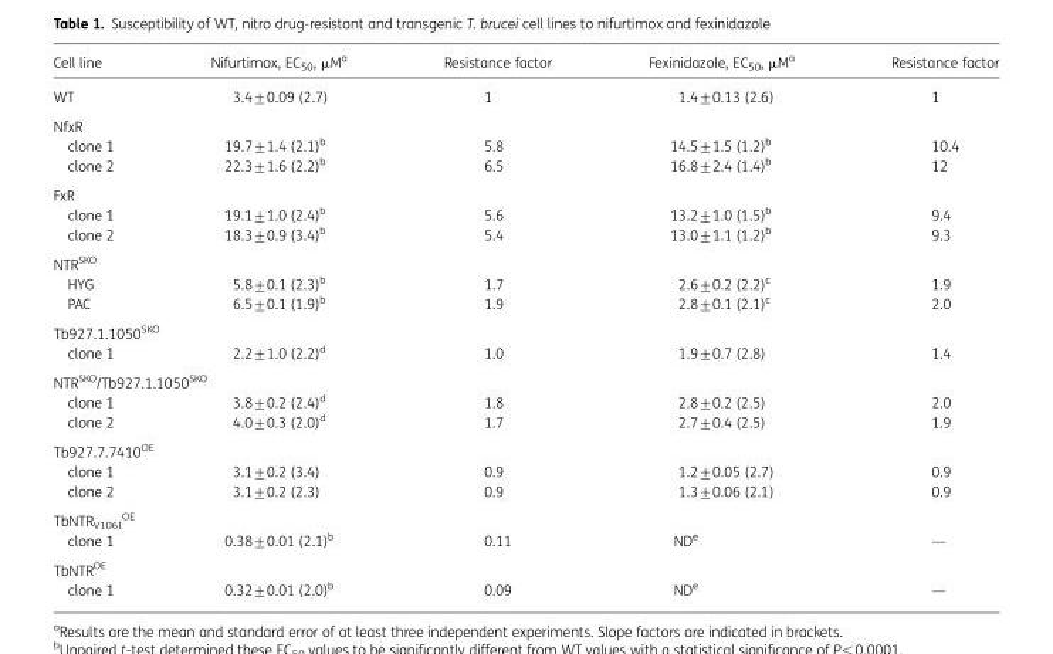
<table><thead><tr><td>Cell line</td><td>Nifurtimox, EC<sub>50</sub>, μM<sup>a</sup></td><td>Resistance factor</td><td>Fexinidazole, EC<sub>50</sub>, μM<sup>a</sup></td><td>Resistance factor</td></tr></thead><tbody><tr><td>WT</td><td>3.4+0.09 (2.7)</td><td>1</td><td>1.4+0.13 (2.6)</td><td>1</td></tr><tr><td colspan="5">NfxR</td></tr><tr><td>clone 1</td><td>19.7+1.4 (2.1)b</td><td>5.8</td><td>14.5+1.5 (1.2)b</td><td>10.4</td></tr><tr><td>clone 2</td><td>22.3+1.6 (2.2)b</td><td>6.5</td><td>16.8+2.4 (1.4)b</td><td>12</td></tr><tr><td colspan="5">FxR</td></tr><tr><td>clone 1</td><td>19.1+1.0 (2.4)b</td><td>5.6</td><td>13.2+1.0 (1.5)b</td><td>9.4</td></tr><tr><td>clone 2</td><td>18.3+0.9 (3.4)b</td><td>5.4</td><td>13.0+1.1 (1.2)b</td><td>9.3</td></tr><tr><td colspan="5">NTR<sup>SKO</sup></td></tr><tr><td>HYG</td><td>5.8+0.1 (2.3)b</td><td>1.7</td><td>2.6+0.2 (2.2)c</td><td>1.9</td></tr><tr><td>PAC</td><td>6.5+0.1 (1.9)b</td><td>1.9</td><td>2.8+0.1 (2.1)c</td><td>2.0</td></tr><tr><td colspan="5">Tb927.1.1050<sup>SKO</sup></td></tr><tr><td>clone 1</td><td>2.2+1.0 (2.2)d</td><td>1.0</td><td>1.9+0.7 (2.8)</td><td>1.4</td></tr><tr><td colspan="5">NTR<sup>SKO</sup>/Tb927.1.1050<sup>SKO</sup></td></tr><tr><td>clone 1</td><td>3.8+0.2 (2.4)d</td><td>1.8</td><td>2.8+0.2 (2.5)</td><td>2.0</td></tr><tr><td>clone 2</td><td>4.0+0.3 (2.0)d</td><td>1.7</td><td>2.7+0.4 (2.5)</td><td>1.9</td></tr><tr><td colspan="5">Tb927.7.7410<sup>OE</sup></td></tr><tr><td>clone 1</td><td>3.1+0.2 (3.4)</td><td>0.9</td><td>1.2+0.05 (2.7)</td><td>0.9</td></tr><tr><td>clone 2</td><td>3.1+0.2 (2.3)</td><td>0.9</td><td>1.3+0.06 (2.1)</td><td>0.9</td></tr><tr><td colspan="5">TbNTR<sub>V106I</sub> <sup>OE</sup></td></tr><tr><td>clone 1</td><td>0.38+0.01 (2.1)b</td><td>0.11</td><td>ND<sup>e</sup></td><td>—</td></tr><tr><td colspan="5">TbNTR<sup>OE</sup></td></tr><tr><td>clone 1</td><td>0.32+0.01 (2.0)b</td><td>0.09</td><td>ND<sup>e</sup></td><td>—</td></tr></tbody></table>